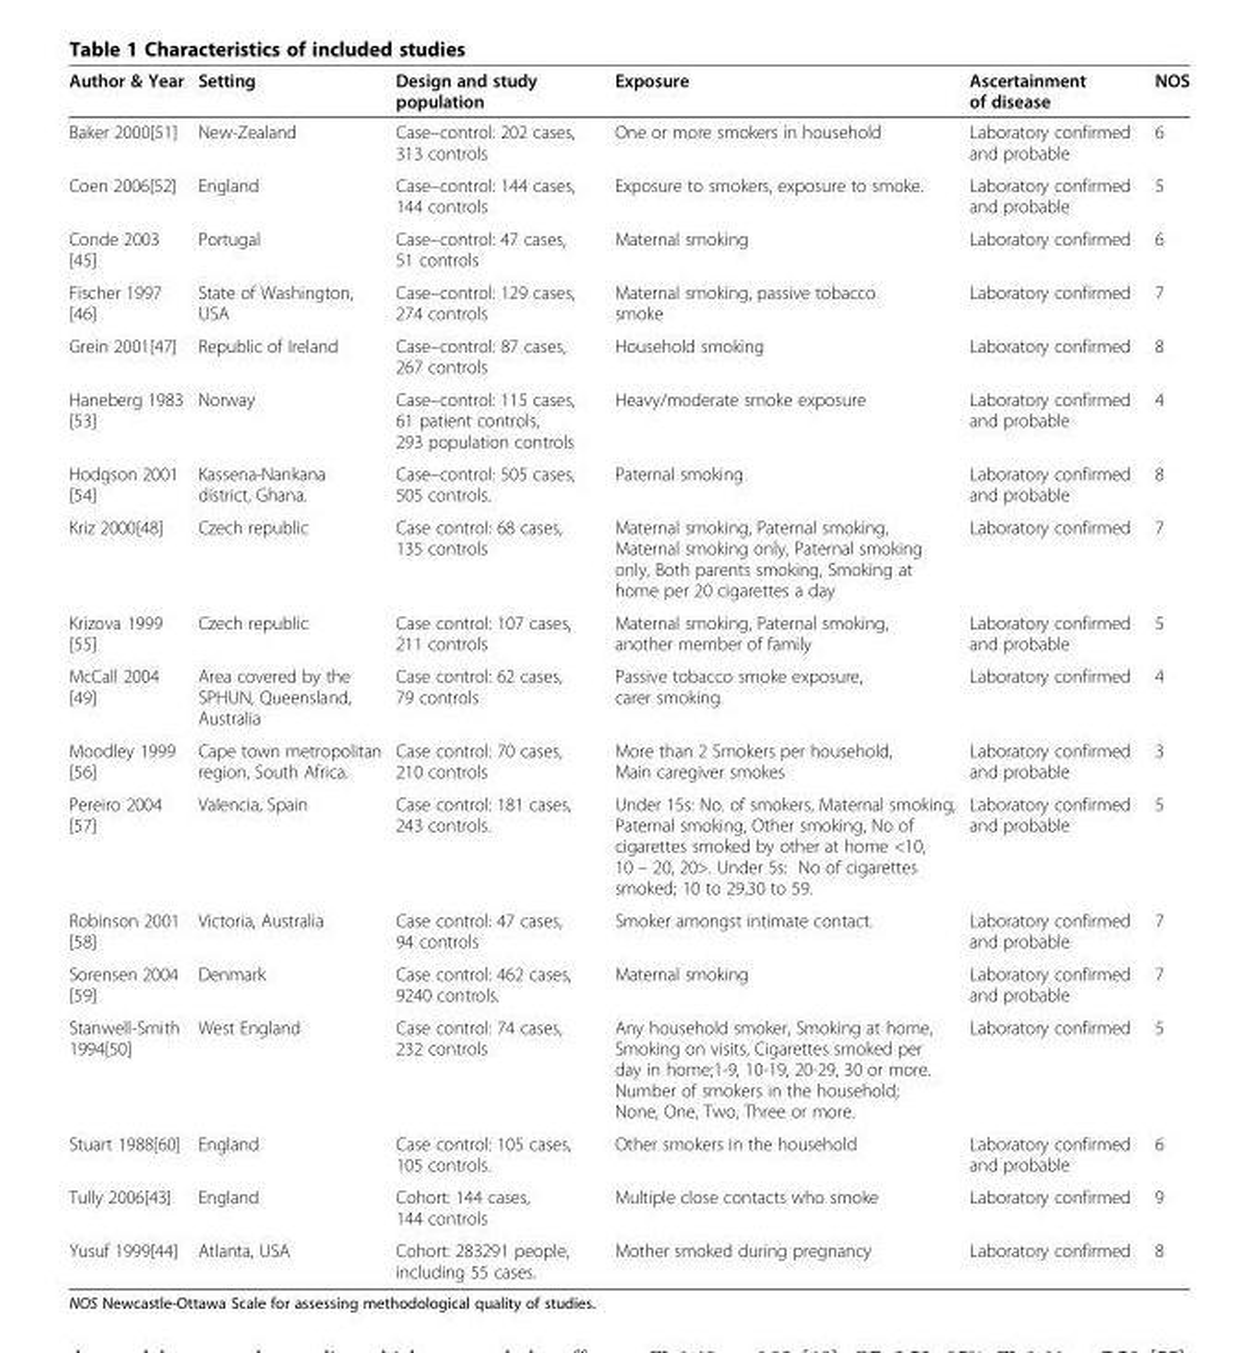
<table><thead><tr><td>Author &amp; Year</td><td>Setting</td><td>Design and study population</td><td>Exposure</td><td>Ascertainment of disease</td><td>NOS</td></tr></thead><tbody><tr><td>Baker 2000[51]</td><td>New-Zealand</td><td>Case–control: 202 cases, 313 controls</td><td>One or more smokers in household</td><td>Laboratory confirmed and probable</td><td>6</td></tr><tr><td>Coen 2006[52]</td><td>England</td><td>Case–control: 144 cases, 144 controls</td><td>Exposure to smokers, exposure to smoke.</td><td>Laboratory confirmed and probable</td><td>5</td></tr><tr><td>Conde 2003 [45]</td><td>Portugal</td><td>Case–control: 47 cases, 51 controls</td><td>Maternal smoking</td><td>Laboratory confirmed</td><td>6</td></tr><tr><td>Fischer 1997 [46]</td><td>State of Washington, USA</td><td>Case–control: 129 cases, 274 controls</td><td>Maternal smoking, passive tobacco smoke</td><td>Laboratory confirmed</td><td>7</td></tr><tr><td>Grein 2001[47]</td><td>Republic of Ireland</td><td>Case–control: 87 cases, 267 controls</td><td>Household smoking</td><td>Laboratory confirmed</td><td>8</td></tr><tr><td>Haneberg 1983 [53]</td><td>Norway</td><td>Case–control: 115 cases, 61 patient controls, 293 population controls</td><td>Heavy/moderate smoke exposure</td><td>Laboratory confirmed and probable</td><td>4</td></tr><tr><td>Hodgson 2001 [54]</td><td>Kassena-Nankana district, Ghana.</td><td>Case–control: 505 cases, 505 controls.</td><td>Paternal smoking</td><td>Laboratory confirmed and probable</td><td>8</td></tr><tr><td>Kriz 2000[48]</td><td>Czech republic</td><td>Case control: 68 cases, 135 controls</td><td>Maternal smoking, Paternal smoking, Maternal smoking only, Paternal smoking only, Both parents smoking, Smoking at home per 20 cigarettes a day</td><td>Laboratory confirmed</td><td>7</td></tr><tr><td>Krizova 1999 [55]</td><td>Czech republic</td><td>Case control: 107 cases, 211 controls</td><td>Maternal smoking, Paternal smoking, another member of family</td><td>Laboratory confirmed and probable</td><td>5</td></tr><tr><td>McCall 2004 [49]</td><td>Area covered by the SPHUN, Queensland, Australia</td><td>Case control: 62 cases, 79 controls</td><td>Passive tobacco smoke exposure, carer smoking.</td><td>Laboratory confirmed</td><td>4</td></tr><tr><td>Moodley 1999 [56]</td><td>Cape town metropolitan region, South Africa.</td><td>Case control: 70 cases, 210 controls</td><td>More than 2 Smokers per household, Main caregiver smokes</td><td>Laboratory confirmed and probable</td><td>3</td></tr><tr><td>Pereiro 2004 [57]</td><td>Valencia, Spain</td><td>Case control: 181 cases, 243 controls.</td><td>Under 15s: No. of smokers, Maternal smoking, Paternal smoking, Other smoking, No of cigarettes smoked by other at home &lt;10, 10 – 20, 20&gt;. Under 5s: No of cigarettes smoked; 10 to 29,30 to 59.</td><td>Laboratory confirmed and probable</td><td>5</td></tr><tr><td>Robinson 2001 [58]</td><td>Victoria, Australia</td><td>Case control: 47 cases, 94 controls</td><td>Smoker amongst intimate contact.</td><td>Laboratory confirmed and probable</td><td>7</td></tr><tr><td>Sorensen 2004 [59]</td><td>Denmark</td><td>Case control: 462 cases, 9240 controls.</td><td>Maternal smoking</td><td>Laboratory confirmed and probable</td><td>7</td></tr><tr><td>Stanwell-Smith 1994[50]</td><td>West England</td><td>Case control: 74 cases, 232 controls</td><td>Any household smoker, Smoking at home, Smoking on visits, Cigarettes smoked per day in home;1-9, 10-19, 20-29, 30 or more. Number of smokers in the household; None, One, Two, Three or more.</td><td>Laboratory confirmed</td><td>5</td></tr><tr><td>Stuart 1988[60]</td><td>England</td><td>Case control: 105 cases, 105 controls.</td><td>Other smokers in the household</td><td>Laboratory confirmed and probable</td><td>6</td></tr><tr><td>Tully 2006[43]</td><td>England</td><td>Cohort: 144 cases, 144 controls</td><td>Multiple close contacts who smoke</td><td>Laboratory confirmed</td><td>9</td></tr><tr><td>Yusuf 1999[44]</td><td>Atlanta, USA</td><td>Cohort: 283291 people, including 55 cases.</td><td>Mother smoked during pregnancy</td><td>Laboratory confirmed</td><td>8</td></tr></tbody></table>